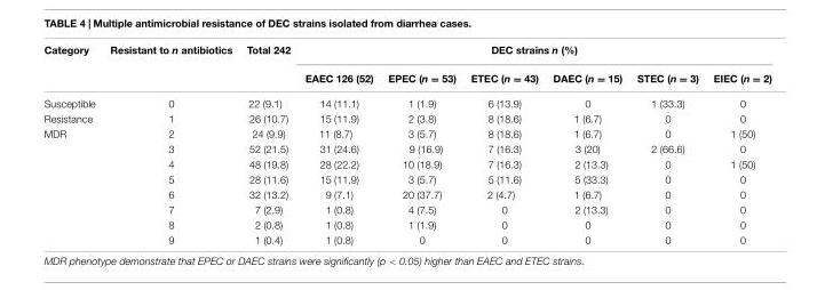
<table><thead><tr><td rowspan="2">Category</td><td rowspan="2">Resistant to n antibiotics</td><td rowspan="2">Total 242</td><td colspan="6">DEC strains n (%)</td></tr><tr><td>EAEC 126 (52)</td><td>EPEC (n = 53)</td><td>ETEC (n = 43)</td><td>DAEC (n = 15)</td><td>STEC (n = 3)</td><td>EIEC (n = 2)</td></tr></thead><tbody><tr><td>Susceptible</td><td>0</td><td>22 (9.1)</td><td>14 (11.1)</td><td>1 (1.9)</td><td>6 (13.9)</td><td>0</td><td>1 (33.3)</td><td>0</td></tr><tr><td>Resistance</td><td>1</td><td>26 (10.7)</td><td>15 (11.9)</td><td>2 (3.8)</td><td>8 (18.6)</td><td>1 (6.7)</td><td>0</td><td>0</td></tr><tr><td rowspan="8">MDR</td><td>2</td><td>24 (9.9)</td><td>11 (8.7)</td><td>3 (5.7)</td><td>8 (18.6)</td><td>1 (6.7)</td><td>0</td><td>1 (50)</td></tr><tr><td>3</td><td>52 (21.5)</td><td>31 (24.6)</td><td>9 (16.9)</td><td>7 (16.3)</td><td>3 (20)</td><td>2 (66.6)</td><td>0</td></tr><tr><td>4</td><td>48 (19.8)</td><td>28 (22.2)</td><td>10 (18.9)</td><td>7 (16.3)</td><td>2 (13.3)</td><td>0</td><td>1 (50)</td></tr><tr><td>5</td><td>28 (11.6)</td><td>15 (11.9)</td><td>3 (5.7)</td><td>5 (11.6)</td><td>5 (33.3)</td><td>0</td><td>0</td></tr><tr><td>6</td><td>32 (13.2)</td><td>9 (7.1)</td><td>20 (37.7)</td><td>2 (4.7)</td><td>1 (6.7)</td><td>0</td><td>0</td></tr><tr><td>7</td><td>7 (2.9)</td><td>1 (0.8)</td><td>4 (7.5)</td><td>0</td><td>2 (13.3)</td><td>0</td><td>0</td></tr><tr><td>8</td><td>2 (0.8)</td><td>1 (0.8)</td><td>1 (1.9)</td><td>0</td><td>0</td><td>0</td><td>0</td></tr><tr><td>9</td><td>1 (0.4)</td><td>1 (0.8)</td><td>0</td><td>0</td><td>0</td><td>0</td><td>0</td></tr></tbody></table>